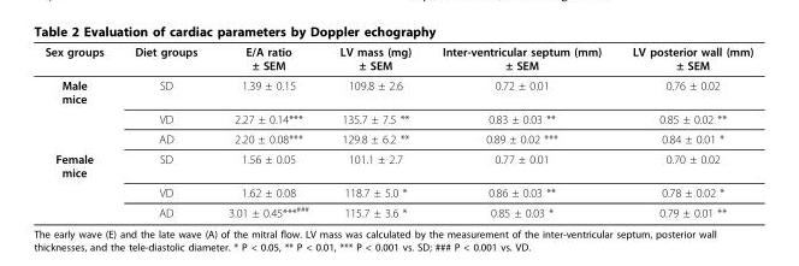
<table><thead><tr><td>Sex groups</td><td>Diet groups</td><td>E/A ratio ± SEM</td><td>LV mass (mg) ± SEM</td><td>Inter-ventricular septum (mm) ± SEM</td><td>LV posterior wall (mm) ± SEM</td></tr></thead><tbody><tr><td rowspan="3">Male mice</td><td>SD</td><td>1.39 ± 0.15</td><td>109.8 ± 2.6</td><td>0.72 ± 0.01</td><td>0.76 ± 0.02</td></tr><tr><td>VD</td><td>2.27 ± 0.14***</td><td>135.7 ± 7.5 **</td><td>0.83 ± 0.03 **</td><td>0.85 ± 0.02 **</td></tr><tr><td>AD</td><td>2.20 ± 0.08***</td><td>129.8 ± 6.2 **</td><td>0.89 ± 0.02 ***</td><td>0.84 ± 0.01 *</td></tr><tr><td rowspan="3">Female mice</td><td>SD</td><td>1.56 ± 0.05</td><td>101.1 ± 2.7</td><td>0.77 ± 0.01</td><td>0.70 ± 0.02</td></tr><tr><td>VD</td><td>1.62 ± 0.08</td><td>118.7 ± 5.0 *</td><td>0.86 ± 0.03 **</td><td>0.78 ± 0.02 *</td></tr><tr><td>AD</td><td>3.01 ± 0.45***<sup>###</sup></td><td>115.7 ± 3.6 *</td><td>0.85 ± 0.03 *</td><td>0.79 ± 0.01 **</td></tr></tbody></table>